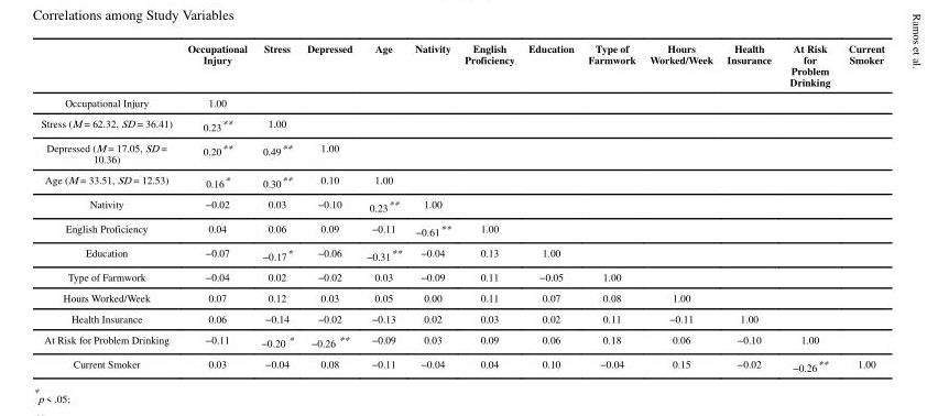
<table><thead><tr><td></td><td>Occupational Injury</td><td>Stress</td><td>Depressed</td><td>Age</td><td>Nativity</td><td>English Proficiency</td><td>Education</td><td>Type of Farmwork</td><td>Hours Worked/Week</td><td>Health Insurance</td><td>At Risk for Problem Drinking</td><td>Current Smoker</td></tr></thead><tbody><tr><td>Occupational Injury</td><td>1.00</td><td></td><td></td><td></td><td></td><td></td><td></td><td></td><td></td><td></td><td></td><td></td></tr><tr><td>Stress (M = 62.32, SD = 36.41)</td><td>0.23**</td><td>1.00</td><td></td><td></td><td></td><td></td><td></td><td></td><td></td><td></td><td></td><td></td></tr><tr><td>Depressed (M = 17.05, SD = 10.36)</td><td>0.20**</td><td>0.49**</td><td>1.00</td><td></td><td></td><td></td><td></td><td></td><td></td><td></td><td></td><td></td></tr><tr><td>Age (M = 33.51, SD = 12.53)</td><td>0.16*</td><td>0.30**</td><td>0.10</td><td>1.00</td><td></td><td></td><td></td><td></td><td></td><td></td><td></td><td></td></tr><tr><td>Nativity</td><td>−0.02</td><td>0.03</td><td>−0.10</td><td>0.23**</td><td>1.00</td><td></td><td></td><td></td><td></td><td></td><td></td><td></td></tr><tr><td>English Proficiency</td><td>0.04</td><td>0.06</td><td>0.09</td><td>−0.11</td><td>−0.61**</td><td>1.00</td><td></td><td></td><td></td><td></td><td></td><td></td></tr><tr><td>Education</td><td>−0.07</td><td>−0.17*</td><td>−0.06</td><td>−0.31**</td><td>−0.04</td><td>0.13</td><td>1.00</td><td></td><td></td><td></td><td></td><td></td></tr><tr><td>Type of Farmwork</td><td>−0.04</td><td>0.02</td><td>−0.02</td><td>0.03</td><td>−0.09</td><td>0.11</td><td>−0.05</td><td>1.00</td><td></td><td></td><td></td><td></td></tr><tr><td>Hours Worked/Week</td><td>0.07</td><td>0.12</td><td>0.03</td><td>0.05</td><td>0.00</td><td>0.11</td><td>0.07</td><td>0.08</td><td>1.00</td><td></td><td></td><td></td></tr><tr><td>Health Insurance</td><td>0.06</td><td>−0.14</td><td>−0.02</td><td>−0.13</td><td>0.02</td><td>0.03</td><td>0.02</td><td>0.11</td><td>−0.11</td><td>1.00</td><td></td><td></td></tr><tr><td>At Risk for Problem Drinking</td><td>−0.11</td><td>−0.20 *</td><td>−0.26 **</td><td>−0.09</td><td>0.03</td><td>0.09</td><td>0.06</td><td>0.18</td><td>0.06</td><td>−0.10</td><td>1.00</td><td></td></tr><tr><td>Current Smoker</td><td>0.03</td><td>−0.04</td><td>0.08</td><td>−0.11</td><td>−0.04</td><td>0.04</td><td>0.10</td><td>−0.04</td><td>0.15</td><td>−0.02</td><td>−0.26**</td><td>1.00</td></tr></tbody></table>